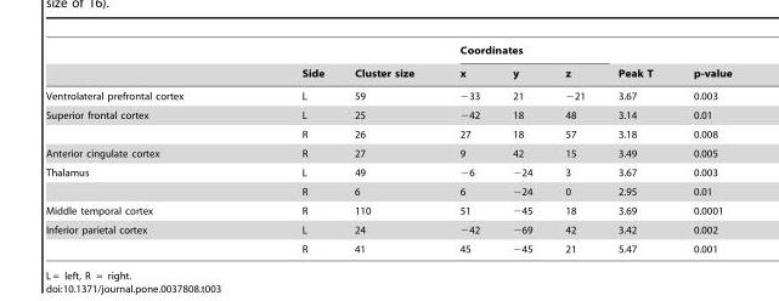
<table><thead><tr><td rowspan="2"></td><td rowspan="2">Side</td><td rowspan="2">Cluster size</td><td colspan="3">Coordinates</td><td rowspan="2">Peak T</td><td rowspan="2">p-value</td></tr><tr><td>x</td><td>y</td><td>z</td></tr></thead><tbody><tr><td>Ventrolateral prefrontal cortex</td><td>L</td><td>59</td><td>−33</td><td>21</td><td>−21</td><td>3.67</td><td>0.003</td></tr><tr><td rowspan="2">Superior frontal cortex</td><td>L</td><td>25</td><td>−42</td><td>18</td><td>48</td><td>3.14</td><td>0.01</td></tr><tr><td>R</td><td>26</td><td>27</td><td>18</td><td>57</td><td>3.18</td><td>0.008</td></tr><tr><td>Anterior cingulate cortex</td><td>R</td><td>27</td><td>9</td><td>42</td><td>15</td><td>3.49</td><td>0.005</td></tr><tr><td rowspan="2">Thalamus</td><td>L</td><td>49</td><td>−6</td><td>−24</td><td>3</td><td>3.67</td><td>0.003</td></tr><tr><td>R</td><td>6</td><td>6</td><td>−24</td><td>0</td><td>2.95</td><td>0.01</td></tr><tr><td>Middle temporal cortex</td><td>R</td><td>110</td><td>51</td><td>−45</td><td>18</td><td>3.69</td><td>0.0001</td></tr><tr><td rowspan="2">Inferior parietal cortex</td><td>L</td><td>24</td><td>−42</td><td>−69</td><td>42</td><td>3.42</td><td>0.002</td></tr><tr><td>R</td><td>41</td><td>45</td><td>−45</td><td>21</td><td>5.47</td><td>0.001</td></tr></tbody></table>